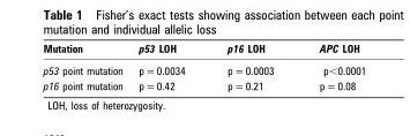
<table><thead><tr><td>Mutation</td><td>p53 LOH</td><td>p16 LOH</td><td>APC LOH</td></tr></thead><tbody><tr><td>p53 point mutation</td><td>p = 0.0034</td><td>p = 0.0003</td><td>p&lt;0.0001</td></tr><tr><td>p16 point mutation</td><td>p = 0.42</td><td>p = 0.21</td><td>p = 0.08</td></tr></tbody></table>